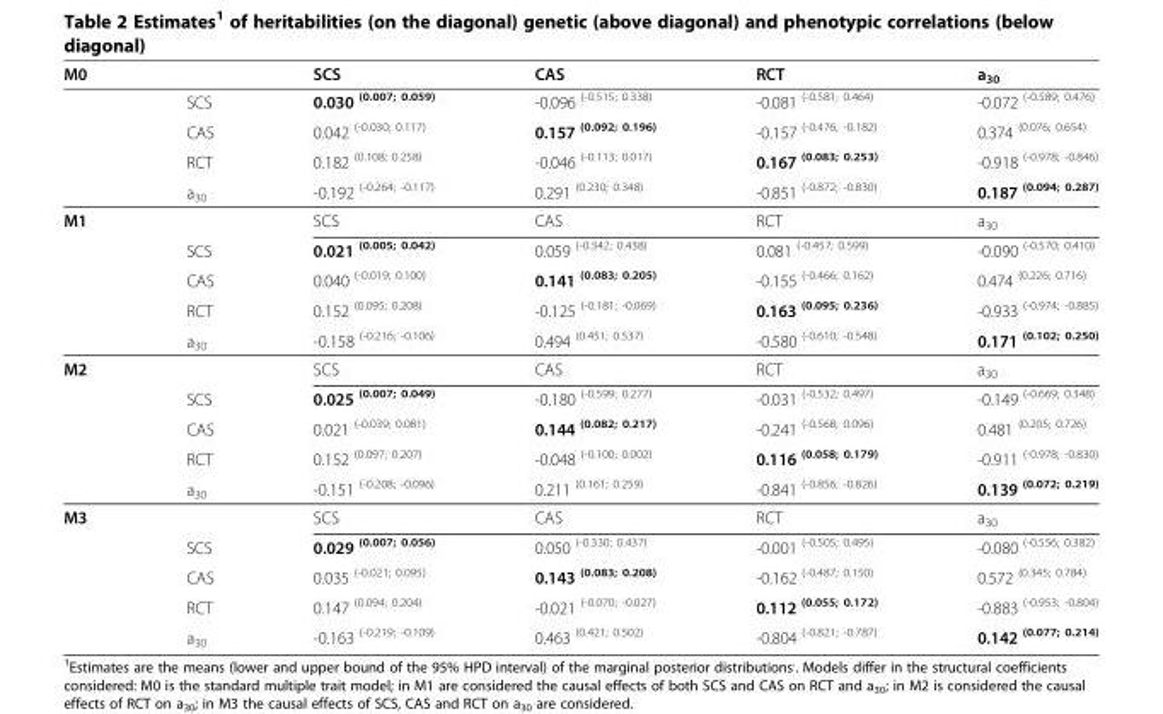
<table><tbody><tr><td rowspan="5">M0</td><td></td><td>SCS</td><td>CAS</td><td>RCT</td><td>a<sub>30</sub></td></tr><tr><td>SCS</td><td>0.030 <sup>(0.007; 0.059)</sup></td><td>-0.096 <sup>(-0.515; 0.338)</sup></td><td>-0.081 <sup>(-0.581; 0.464)</sup></td><td>-0.072 <sup>(-0.589; 0.476)</sup></td></tr><tr><td>CAS</td><td>0.042 <sup>(-0.030; 0.117)</sup></td><td>0.157 <sup>(0.092; 0.196)</sup></td><td>-0.157 <sup>(-0.476; -0.182)</sup></td><td>0.374 <sup>(0.076; 0.654)</sup></td></tr><tr><td>RCT</td><td>0.182 <sup>(0.108; 0.258)</sup></td><td>-0.046 <sup>(-0.113; 0.017)</sup></td><td>0.167 <sup>(0.083; 0.253)</sup></td><td>-0.918 <sup>(-0.978; -0.846)</sup></td></tr><tr><td>a<sub>30</sub></td><td>-0.192 <sup>(-0.264; -0.117)</sup></td><td>0.291 <sup>(0.230; 0.348)</sup></td><td>-0.851 <sup>(-0.872; -0.830)</sup></td><td>0.187 <sup>(0.094; 0.287)</sup></td></tr><tr><td rowspan="5">M1</td><td></td><td>SCS</td><td>CAS</td><td>RCT</td><td>a<sub>30</sub></td></tr><tr><td>SCS</td><td>0.021 <sup>(0.005; 0.042)</sup></td><td>0.059 <sup>(-0.342; 0.438)</sup></td><td>0.081 <sup>(-0.457; 0.599)</sup></td><td>-0.090 <sup>(-0.570; 0.410)</sup></td></tr><tr><td>CAS</td><td>0.040 <sup>(-0.019; 0.100)</sup></td><td>0.141 <sup>(0.083; 0.205)</sup></td><td>-0.155 <sup>(-0.466; 0.162)</sup></td><td>0.474 <sup>(0.226; 0.716)</sup></td></tr><tr><td>RCT</td><td>0.152 <sup>(0.095; 0.208)</sup></td><td>-0.125 <sup>(-0.181; -0.069)</sup></td><td>0.163 <sup>(0.095; 0.236)</sup></td><td>-0.933 <sup>(-0.974; -0.885)</sup></td></tr><tr><td>a<sub>30</sub></td><td>-0.158 <sup>(-0.216; -0.106)</sup></td><td>0.494 <sup>(0.451; 0.537)</sup></td><td>-0.580 <sup>(-0.610; -0.548)</sup></td><td>0.171 <sup>(0.102; 0.250)</sup></td></tr><tr><td rowspan="5">M2</td><td></td><td>SCS</td><td>CAS</td><td>RCT</td><td>a<sub>30</sub></td></tr><tr><td>SCS</td><td>0.025 <sup>(0.007; 0.049)</sup></td><td>-0.180 <sup>(-0.599; 0.277)</sup></td><td>-0.031 <sup>(-0.532; 0.497)</sup></td><td>-0.149 <sup>(-0.669; 0.348)</sup></td></tr><tr><td>CAS</td><td>0.021 <sup>(-0.039; 0.081)</sup></td><td>0.144 <sup>(0.082; 0.217)</sup></td><td>-0.241 <sup>(-0.568; 0.096)</sup></td><td>0.481 <sup>(0.205; 0.726)</sup></td></tr><tr><td>RCT</td><td>0.152 <sup>(0.097; 0.207)</sup></td><td>-0.048 <sup>(-0.100; 0.002)</sup></td><td>0.116 <sup>(0.058; 0.179)</sup></td><td>-0.911 <sup>(-0.978; -0.830)</sup></td></tr><tr><td>a<sub>30</sub></td><td>-0.151 <sup>(-0.208; -0.096)</sup></td><td>0.211 <sup>(0.161; 0.259)</sup></td><td>-0.841 <sup>(-0.856; -0.826)</sup></td><td>0.139 <sup>(0.072; 0.219)</sup></td></tr><tr><td rowspan="5">M3</td><td></td><td>SCS</td><td>CAS</td><td>RCT</td><td>a<sub>30</sub></td></tr><tr><td>SCS</td><td>0.029 <sup>(0.007; 0.056)</sup></td><td>0.050 <sup>(-0.330; 0.437)</sup></td><td>-0.001 <sup>(-0.505; 0.495)</sup></td><td>-0.080 <sup>(-0.556; 0.382)</sup></td></tr><tr><td>CAS</td><td>0.035 <sup>(-0.021; 0.095)</sup></td><td>0.143 <sup>(0.083; 0.208)</sup></td><td>-0.162 <sup>(-0.487; 0.150)</sup></td><td>0.572 <sup>(0.345; 0.784)</sup></td></tr><tr><td>RCT</td><td>0.147 <sup>(0.094; 0.204)</sup></td><td>-0.021 <sup>(-0.070; -0.027)</sup></td><td>0.112 <sup>(0.055; 0.172)</sup></td><td>-0.883 <sup>(-0.953; -0.804)</sup></td></tr><tr><td>a<sub>30</sub></td><td>-0.163 <sup>(-0.219; -0.109)</sup></td><td>0.463 <sup>(0.421; 0.502)</sup></td><td>-0.804 <sup>(-0.821; -0.787)</sup></td><td>0.142 <sup>(0.077; 0.214)</sup></td></tr></tbody></table>